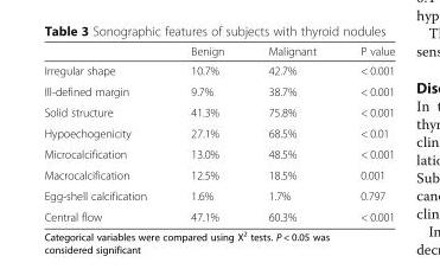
<table><thead><tr><td></td><td>Benign</td><td>Malignant</td><td>P value</td></tr></thead><tbody><tr><td>Irregular shape</td><td>10.7%</td><td>42.7%</td><td>&lt; 0.001</td></tr><tr><td>Ill-defined margin</td><td>9.7%</td><td>38.7%</td><td>&lt; 0.001</td></tr><tr><td>Solid structure</td><td>41.3%</td><td>75.8%</td><td>&lt; 0.001</td></tr><tr><td>Hypoechogenicity</td><td>27.1%</td><td>68.5%</td><td>&lt; 0.01</td></tr><tr><td>Microcalcification</td><td>13.0%</td><td>48.5%</td><td>&lt; 0.001</td></tr><tr><td>Macrocalcification</td><td>12.5%</td><td>18.5%</td><td>0.001</td></tr><tr><td>Egg-shell calcification</td><td>1.6%</td><td>1.7%</td><td>0.797</td></tr><tr><td>Central flow</td><td>47.1%</td><td>60.3%</td><td>&lt; 0.001</td></tr></tbody></table>